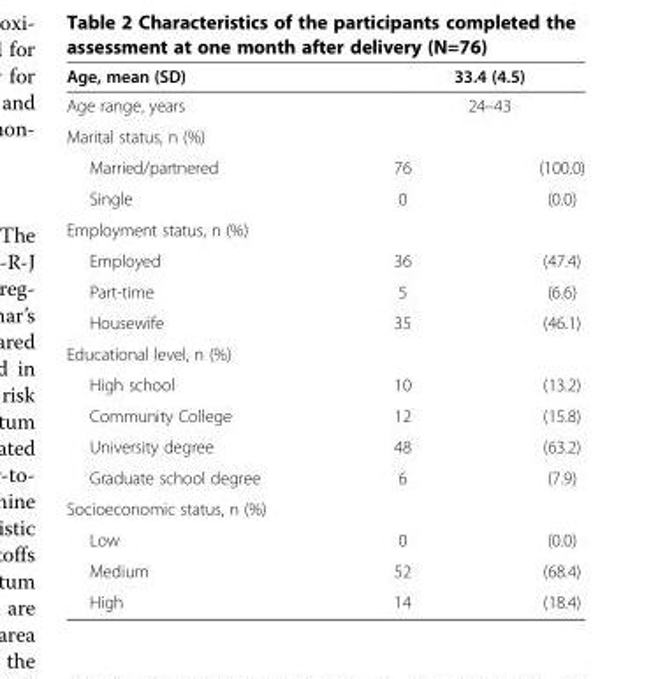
<table><thead><tr><td rowspan="3">Age, mean (SD) Age range, years Marital status, n (%)</td><td rowspan="2" colspan="2">33.4 (4.5) 24–43</td></tr><tr></tr><tr><td></td><td></td></tr></thead><tbody><tr><td>Married/partnered</td><td>76</td><td>(100.0)</td></tr><tr><td>Single</td><td>0</td><td>(0.0)</td></tr><tr><td colspan="3">Employment status, n (%)</td></tr><tr><td>Employed</td><td>36</td><td>(47.4)</td></tr><tr><td>Part-time</td><td>5</td><td>(6.6)</td></tr><tr><td>Housewife</td><td>35</td><td>(46.1)</td></tr><tr><td colspan="3">Educational level, n (%)</td></tr><tr><td>High school</td><td>10</td><td>(13.2)</td></tr><tr><td>Community College</td><td>12</td><td>(15.8)</td></tr><tr><td>University degree</td><td>48</td><td>(63.2)</td></tr><tr><td>Graduate school degree</td><td>6</td><td>(7.9)</td></tr><tr><td colspan="3">Socioeconomic status, n (%)</td></tr><tr><td>Low</td><td>0</td><td>(0.0)</td></tr><tr><td>Medium</td><td>52</td><td>(68.4)</td></tr><tr><td>High</td><td>14</td><td>(18.4)</td></tr></tbody></table>